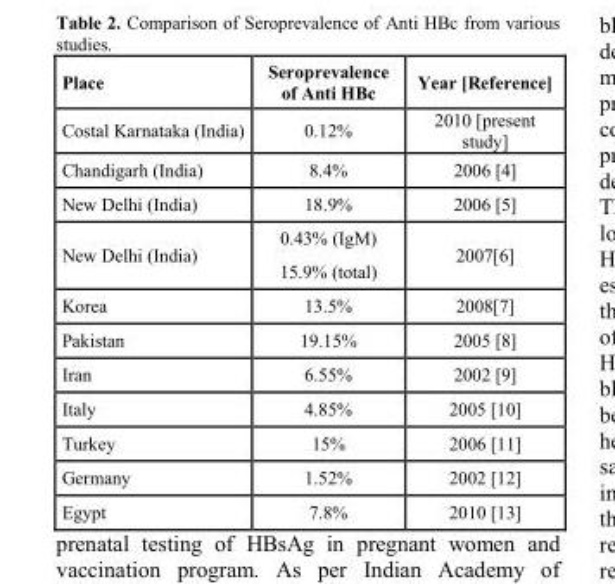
<table><thead><tr><td>Place</td><td>Seroprevalence of Anti HBc</td><td>Year [Reference]</td></tr></thead><tbody><tr><td>Costal Karnataka (India)</td><td>0.12%</td><td>2010 [present study]</td></tr><tr><td>Chandigarh (India)</td><td>8.4%</td><td>2006 [4]</td></tr><tr><td>New Delhi (India)</td><td>18.9%</td><td>2006 [5]</td></tr><tr><td>New Delhi (India)</td><td>0.43% (IgM) 15.9% (total)</td><td>2007[6]</td></tr><tr><td>Korea</td><td>13.5%</td><td>2008[7]</td></tr><tr><td>Pakistan</td><td>19.15%</td><td>2005 [8]</td></tr><tr><td>Iran</td><td>6.55%</td><td>2002 [9]</td></tr><tr><td>Italy</td><td>4.85%</td><td>2005 [10]</td></tr><tr><td>Turkey</td><td>15%</td><td>2006 [11]</td></tr><tr><td>Germany</td><td>1.52%</td><td>2002 [12]</td></tr><tr><td>Egypt</td><td>7.8%</td><td>2010 [13]</td></tr></tbody></table>